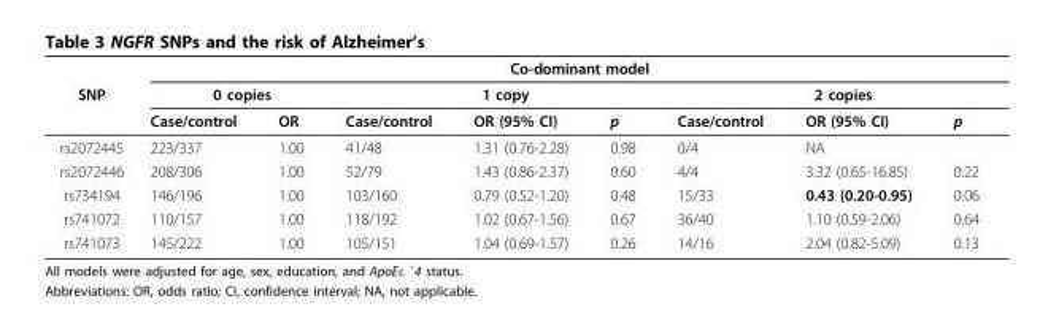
<table><thead><tr><td rowspan="3">SNP</td><td colspan="8">Co-dominant model</td></tr><tr><td colspan="2">0 copies</td><td colspan="3">1 copy</td><td colspan="3">2 copies</td></tr><tr><td>Case/control</td><td>OR</td><td>Case/control</td><td>OR (95% CI)</td><td>p</td><td>Case/control</td><td>OR (95% CI)</td><td>p</td></tr></thead><tbody><tr><td>rs2072445</td><td>223/337</td><td>1.00</td><td>41/48</td><td>1.31 (0.76-2.28)</td><td>0.98</td><td>0/4</td><td>NA</td><td></td></tr><tr><td>rs2072446</td><td>208/306</td><td>1.00</td><td>52/79</td><td>1.43 (0.86-2.37)</td><td>0.60</td><td>4/4</td><td>3.32 (0.65-16.85)</td><td>0.22</td></tr><tr><td>rs734194</td><td>146/196</td><td>1.00</td><td>103/160</td><td>0.79 (0.52-1.20)</td><td>0.48</td><td>15/33</td><td>0.43 (0.20-0.95)</td><td>0.06</td></tr><tr><td>rs741072</td><td>110/157</td><td>1.00</td><td>118/192</td><td>1.02 (0.67-1.56)</td><td>0.67</td><td>36/40</td><td>1.10 (0.59-2.06)</td><td>0.64</td></tr><tr><td>rs741073</td><td>145/222</td><td>1.00</td><td>105/151</td><td>1.04 (0.69-1.57)</td><td>0.26</td><td>14/16</td><td>2.04 (0.82-5.09)</td><td>0.13</td></tr></tbody></table>